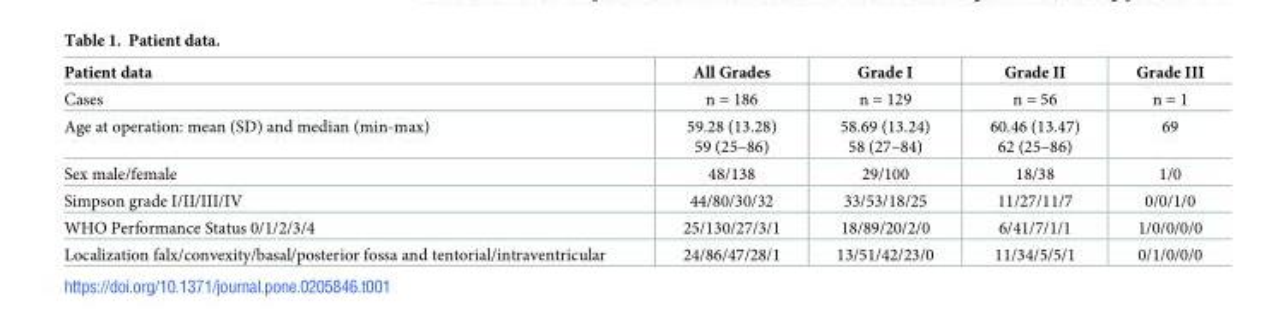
<table><thead><tr><td>Patient data</td><td>All Grades</td><td>Grade I</td><td>Grade II</td><td>Grade III</td></tr></thead><tbody><tr><td>Cases</td><td>n = 186</td><td>n = 129</td><td>n = 56</td><td>n = 1</td></tr><tr><td>Age at operation: mean (SD) and median (min-max)</td><td>59.28 (13.28) 59 (25–86)</td><td>58.69 (13.24) 58 (27–84)</td><td>60.46 (13.47) 62 (25–86)</td><td>69</td></tr><tr><td>Sex male/female</td><td>48/138</td><td>29/100</td><td>18/38</td><td>1/0</td></tr><tr><td>Simpson grade I/II/III/IV</td><td>44/80/30/32</td><td>33/53/18/25</td><td>11/27/11/7</td><td>0/0/1/0</td></tr><tr><td>WHO Performance Status 0/1/2/3/4</td><td>25/130/27/3/1</td><td>18/89/20/2/0</td><td>6/41/7/1/1</td><td>1/0/0/0/0</td></tr><tr><td>Localization falx/convexity/basal/posterior fossa and tentorial/intraventricular</td><td>24/86/47/28/1</td><td>13/51/42/23/0</td><td>11/34/5/5/1</td><td>0/1/0/0/0</td></tr></tbody></table>